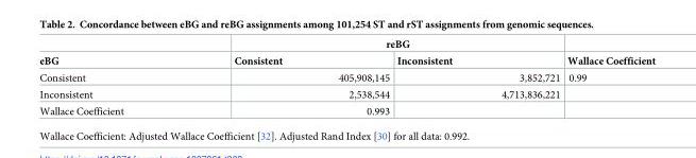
<table><thead><tr><td rowspan="2">eBG</td><td colspan="2">reBG</td><td rowspan="2">Wallace Coefficient</td></tr><tr><td>Consistent</td><td>Inconsistent</td></tr></thead><tbody><tr><td>Consistent</td><td>405,908,145</td><td>3,852,721</td><td>0.99</td></tr><tr><td>Inconsistent</td><td>2,538,544</td><td>4,713,836,221</td><td></td></tr><tr><td>Wallace Coefficient</td><td>0.993</td><td></td><td></td></tr></tbody></table>